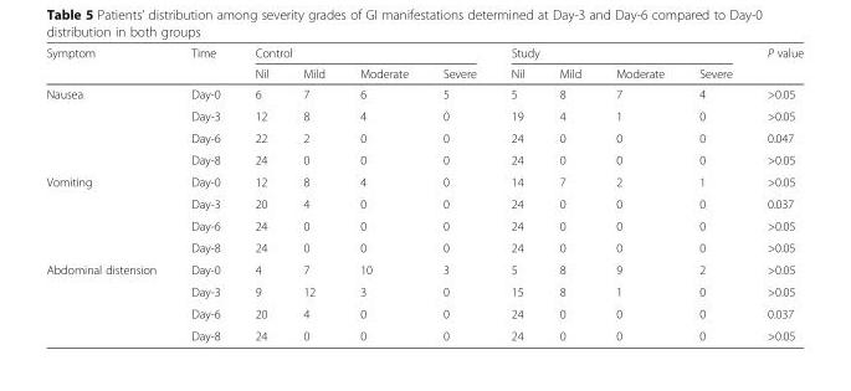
<table><thead><tr><td rowspan="2">Symptom</td><td rowspan="2">Time</td><td colspan="4">Control</td><td colspan="4">Study</td><td rowspan="2">P value</td></tr><tr><td>Nil</td><td>Mild</td><td>Moderate</td><td>Severe</td><td>Nil</td><td>Mild</td><td>Moderate</td><td>Severe</td></tr></thead><tbody><tr><td rowspan="4">Nausea</td><td>Day-0</td><td>6</td><td>7</td><td>6</td><td>5</td><td>5</td><td>8</td><td>7</td><td>4</td><td>&gt;0.05</td></tr><tr><td>Day-3</td><td>12</td><td>8</td><td>4</td><td>0</td><td>19</td><td>4</td><td>1</td><td>0</td><td>&gt;0.05</td></tr><tr><td>Day-6</td><td>22</td><td>2</td><td>0</td><td>0</td><td>24</td><td>0</td><td>0</td><td>0</td><td>0.047</td></tr><tr><td>Day-8</td><td>24</td><td>0</td><td>0</td><td>0</td><td>24</td><td>0</td><td>0</td><td>0</td><td>&gt;0.05</td></tr><tr><td rowspan="4">Vomiting</td><td>Day-0</td><td>12</td><td>8</td><td>4</td><td>0</td><td>14</td><td>7</td><td>2</td><td>1</td><td>&gt;0.05</td></tr><tr><td>Day-3</td><td>20</td><td>4</td><td>0</td><td>0</td><td>24</td><td>0</td><td>0</td><td>0</td><td>0.037</td></tr><tr><td>Day-6</td><td>24</td><td>0</td><td>0</td><td>0</td><td>24</td><td>0</td><td>0</td><td>0</td><td>&gt;0.05</td></tr><tr><td>Day-8</td><td>24</td><td>0</td><td>0</td><td>0</td><td>24</td><td>0</td><td>0</td><td>0</td><td>&gt;0.05</td></tr><tr><td rowspan="4">Abdominal distension</td><td>Day-0</td><td>4</td><td>7</td><td>10</td><td>3</td><td>5</td><td>8</td><td>9</td><td>2</td><td>&gt;0.05</td></tr><tr><td>Day-3</td><td>9</td><td>12</td><td>3</td><td>0</td><td>15</td><td>8</td><td>1</td><td>0</td><td>&gt;0.05</td></tr><tr><td>Day-6</td><td>20</td><td>4</td><td>0</td><td>0</td><td>24</td><td>0</td><td>0</td><td>0</td><td>0.037</td></tr><tr><td>Day-8</td><td>24</td><td>0</td><td>0</td><td>0</td><td>24</td><td>0</td><td>0</td><td>0</td><td>&gt;0.05</td></tr></tbody></table>